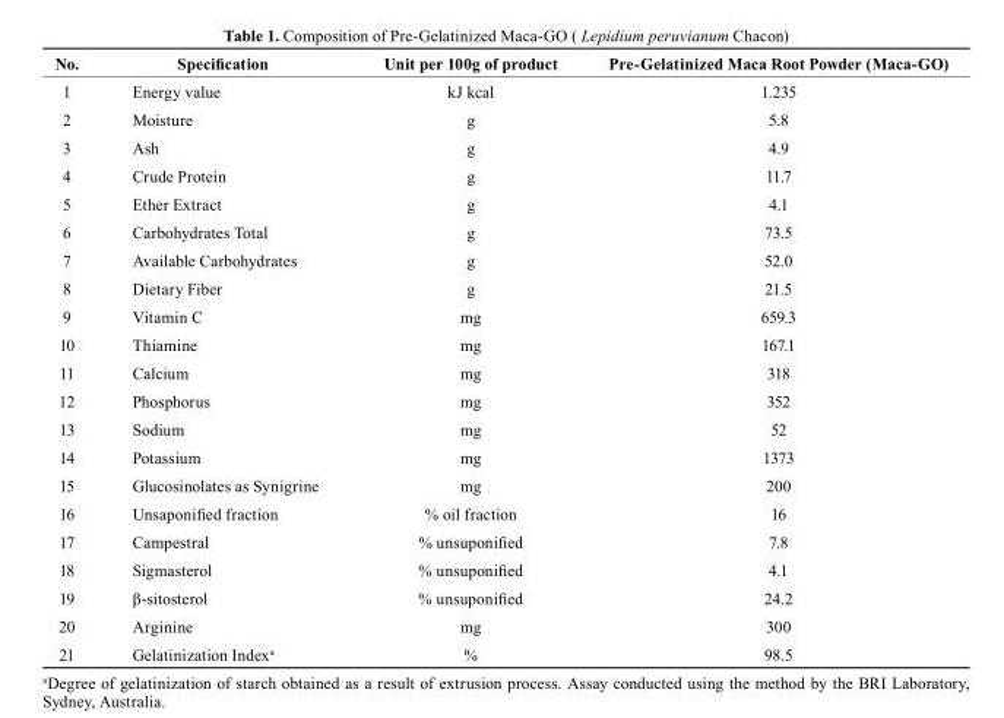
<table><thead><tr><td>No.</td><td>Specification</td><td>Unit per 100g of product</td><td>Pre-Gelatinized Maca root Powder (Maca-GO)</td></tr></thead><tbody><tr><td>1</td><td>Energy value</td><td>kJ kcal</td><td>1.235</td></tr><tr><td>2</td><td>Moisture</td><td>g</td><td>5.8</td></tr><tr><td>3</td><td>Ash</td><td>g</td><td>4.9</td></tr><tr><td>4</td><td>Crude Protein</td><td>g</td><td>11.7</td></tr><tr><td>5</td><td>Ether Extract</td><td>g</td><td>4.1</td></tr><tr><td>6</td><td>Carbohydrates Total</td><td>g</td><td>73.5</td></tr><tr><td>7</td><td>Available Carbohydrates</td><td>g</td><td>52.0</td></tr><tr><td>8</td><td>Dietary Fiber</td><td>g</td><td>21.5</td></tr><tr><td>9</td><td>Vitamin C</td><td>mg</td><td>659.3</td></tr><tr><td>10</td><td>Thiamine</td><td>mg</td><td>167.1</td></tr><tr><td>11</td><td>Calcium</td><td>mg</td><td>318</td></tr><tr><td>12</td><td>Phosphorus</td><td>mg</td><td>352</td></tr><tr><td>13</td><td>Sodium</td><td>mg</td><td>52</td></tr><tr><td>14</td><td>Potassium</td><td>mg</td><td>1373</td></tr><tr><td>15</td><td>Glucosinolates as Synigrine</td><td>mg</td><td>200</td></tr><tr><td>16</td><td>Unsaponified fraction</td><td>% oil fraction</td><td>16</td></tr><tr><td>17</td><td>Campestral</td><td>% unsuponified</td><td>7.8</td></tr><tr><td>18</td><td>Sigmasterol</td><td>% unsuponified</td><td>4.1</td></tr><tr><td>19</td><td>β-sitosterol</td><td>% unsuponified</td><td>24.2</td></tr><tr><td>20</td><td>Arginine</td><td>mg</td><td>300</td></tr><tr><td>21</td><td>Gelatinization Index<sup>a</sup></td><td>%</td><td>98.5</td></tr></tbody></table>